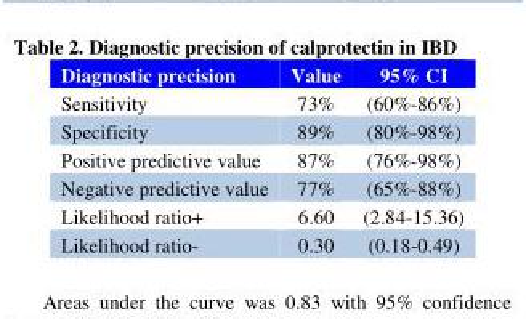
<table><thead><tr><td>Diagnostic precision</td><td>Value</td><td>95% CI</td></tr></thead><tbody><tr><td>Sensitivity</td><td>73%</td><td>(60%-86%)</td></tr><tr><td>Specificity</td><td>89%</td><td>(80%-98%)</td></tr><tr><td>Positive predictive value</td><td>87%</td><td>(76%-98%)</td></tr><tr><td>Negative predictive value</td><td>77%</td><td>(65%-88%)</td></tr><tr><td>Likelihood ratio+</td><td>6.60</td><td>(2.84-15.36)</td></tr><tr><td>Likelihood ratio-</td><td>0.30</td><td>(0.18-0.49)</td></tr></tbody></table>